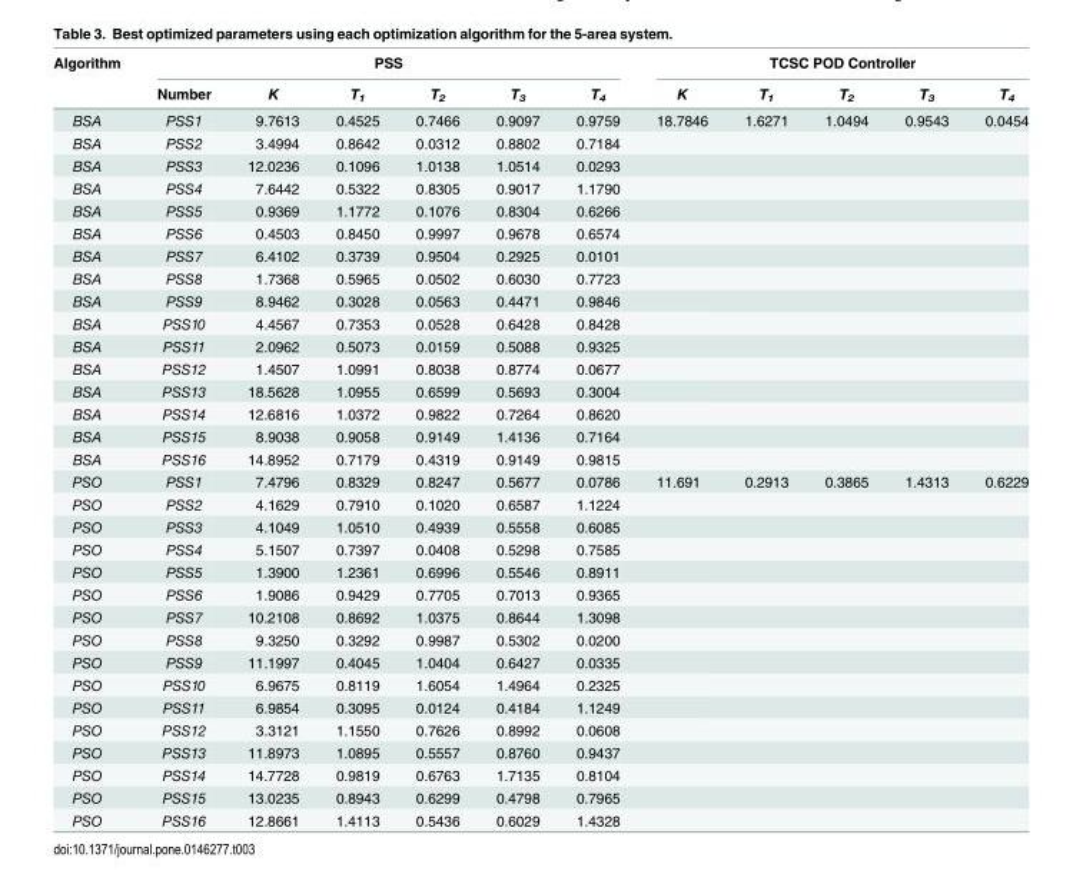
<table><thead><tr><td rowspan="2">Algorithm</td><td colspan="6">PSS</td><td colspan="5">TCSC POD Controller</td></tr><tr><td>Number</td><td>K</td><td>T<sub>1</sub></td><td>T<sub>2</sub></td><td>T<sub>3</sub></td><td>T<sub>4</sub></td><td>K</td><td>T<sub>1</sub></td><td>T<sub>2</sub></td><td>T<sub>3</sub></td><td>T<sub>4</sub></td></tr></thead><tbody><tr><td>BSA</td><td>PSS1</td><td>9.7613</td><td>0.4525</td><td>0.7466</td><td>0.9097</td><td>0.9759</td><td>18.7846</td><td>1.6271</td><td>1.0494</td><td>0.9543</td><td>0.0454</td></tr><tr><td>BSA</td><td>PSS2</td><td>3.4994</td><td>0.8642</td><td>0.0312</td><td>0.8802</td><td>0.7184</td><td></td><td></td><td></td><td></td><td></td></tr><tr><td>BSA</td><td>PSS3</td><td>12.0236</td><td>0.1096</td><td>1.0138</td><td>1.0514</td><td>0.0293</td><td></td><td></td><td></td><td></td><td></td></tr><tr><td>BSA</td><td>PSS4</td><td>7.6442</td><td>0.5322</td><td>0.8305</td><td>0.9017</td><td>1.1790</td><td></td><td></td><td></td><td></td><td></td></tr><tr><td>BSA</td><td>PSS5</td><td>0.9369</td><td>1.1772</td><td>0.1076</td><td>0.8304</td><td>0.6266</td><td></td><td></td><td></td><td></td><td></td></tr><tr><td>BSA</td><td>PSS6</td><td>0.4503</td><td>0.8450</td><td>0.9997</td><td>0.9678</td><td>0.6574</td><td></td><td></td><td></td><td></td><td></td></tr><tr><td>BSA</td><td>PSS7</td><td>6.4102</td><td>0.3739</td><td>0.9504</td><td>0.2925</td><td>0.0101</td><td></td><td></td><td></td><td></td><td></td></tr><tr><td>BSA</td><td>PSS8</td><td>1.7368</td><td>0.5965</td><td>0.0502</td><td>0.6030</td><td>0.7723</td><td></td><td></td><td></td><td></td><td></td></tr><tr><td>BSA</td><td>PSS9</td><td>8.9462</td><td>0.3028</td><td>0.0563</td><td>0.4471</td><td>0.9846</td><td></td><td></td><td></td><td></td><td></td></tr><tr><td>BSA</td><td>PSS10</td><td>4.4567</td><td>0.7353</td><td>0.0528</td><td>0.6428</td><td>0.8428</td><td></td><td></td><td></td><td></td><td></td></tr><tr><td>BSA</td><td>PSS11</td><td>2.0962</td><td>0.5073</td><td>0.0159</td><td>0.5088</td><td>0.9325</td><td></td><td></td><td></td><td></td><td></td></tr><tr><td>BSA</td><td>PSS12</td><td>1.4507</td><td>1.0991</td><td>0.8038</td><td>0.8774</td><td>0.0677</td><td></td><td></td><td></td><td></td><td></td></tr><tr><td>BSA</td><td>PSS13</td><td>18.5628</td><td>1.0955</td><td>0.6599</td><td>0.5693</td><td>0.3004</td><td></td><td></td><td></td><td></td><td></td></tr><tr><td>BSA</td><td>PSS14</td><td>12.6816</td><td>1.0372</td><td>0.9822</td><td>0.7264</td><td>0.8620</td><td></td><td></td><td></td><td></td><td></td></tr><tr><td>BSA</td><td>PSS15</td><td>8.9038</td><td>0.9058</td><td>0.9149</td><td>1.4136</td><td>0.7164</td><td></td><td></td><td></td><td></td><td></td></tr><tr><td>BSA</td><td>PSS16</td><td>14.8952</td><td>0.7179</td><td>0.4319</td><td>0.9149</td><td>0.9815</td><td></td><td></td><td></td><td></td><td></td></tr><tr><td>PSO</td><td>PSS1</td><td>7.4796</td><td>0.8329</td><td>0.8247</td><td>0.5677</td><td>0.0786</td><td>11.691</td><td>0.2913</td><td>0.3865</td><td>1.4313</td><td>0.6229</td></tr><tr><td>PSO</td><td>PSS2</td><td>4.1629</td><td>0.7910</td><td>0.1020</td><td>0.6587</td><td>1.1224</td><td></td><td></td><td></td><td></td><td></td></tr><tr><td>PSO</td><td>PSS3</td><td>4.1049</td><td>1.0510</td><td>0.4939</td><td>0.5558</td><td>0.6085</td><td></td><td></td><td></td><td></td><td></td></tr><tr><td>PSO</td><td>PSS4</td><td>5.1507</td><td>0.7397</td><td>0.0408</td><td>0.5298</td><td>0.7585</td><td></td><td></td><td></td><td></td><td></td></tr><tr><td>PSO</td><td>PSS5</td><td>1.3900</td><td>1.2361</td><td>0.6996</td><td>0.5546</td><td>0.8911</td><td></td><td></td><td></td><td></td><td></td></tr><tr><td>PSO</td><td>PSS6</td><td>1.9086</td><td>0.9429</td><td>0.7705</td><td>0.7013</td><td>0.9365</td><td></td><td></td><td></td><td></td><td></td></tr><tr><td>PSO</td><td>PSS7</td><td>10.2108</td><td>0.8692</td><td>1.0375</td><td>0.8644</td><td>1.3098</td><td></td><td></td><td></td><td></td><td></td></tr><tr><td>PSO</td><td>PSS8</td><td>9.3250</td><td>0.3292</td><td>0.9987</td><td>0.5302</td><td>0.0200</td><td></td><td></td><td></td><td></td><td></td></tr><tr><td>PSO</td><td>PSS9</td><td>11.1997</td><td>0.4045</td><td>1.0404</td><td>0.6427</td><td>0.0335</td><td></td><td></td><td></td><td></td><td></td></tr><tr><td>PSO</td><td>PSS10</td><td>6.9675</td><td>0.8119</td><td>1.6054</td><td>1.4964</td><td>0.2325</td><td></td><td></td><td></td><td></td><td></td></tr><tr><td>PSO</td><td>PSS11</td><td>6.9854</td><td>0.3095</td><td>0.0124</td><td>0.4184</td><td>1.1249</td><td></td><td></td><td></td><td></td><td></td></tr><tr><td>PSO</td><td>PSS12</td><td>3.3121</td><td>1.1550</td><td>0.7626</td><td>0.8992</td><td>0.0608</td><td></td><td></td><td></td><td></td><td></td></tr><tr><td>PSO</td><td>PSS13</td><td>11.8973</td><td>1.0895</td><td>0.5557</td><td>0.8760</td><td>0.9437</td><td></td><td></td><td></td><td></td><td></td></tr><tr><td>PSO</td><td>PSS14</td><td>14.7728</td><td>0.9819</td><td>0.6763</td><td>1.7135</td><td>0.8104</td><td></td><td></td><td></td><td></td><td></td></tr><tr><td>PSO</td><td>PSS15</td><td>13.0235</td><td>0.8943</td><td>0.6299</td><td>0.4798</td><td>0.7965</td><td></td><td></td><td></td><td></td><td></td></tr><tr><td>PSO</td><td>PSS16</td><td>12.8661</td><td>1.4113</td><td>0.5436</td><td>0.6029</td><td>1.4328</td><td></td><td></td><td></td><td></td><td></td></tr></tbody></table>